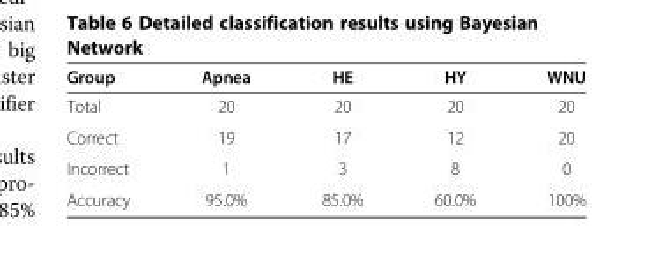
<table><thead><tr><td>Group</td><td>Apnea</td><td>HE</td><td>HY</td><td>WNU</td></tr></thead><tbody><tr><td>Total</td><td>20</td><td>20</td><td>20</td><td>20</td></tr><tr><td>Correct</td><td>19</td><td>17</td><td>12</td><td>20</td></tr><tr><td>Incorrect</td><td>1</td><td>3</td><td>8</td><td>0</td></tr><tr><td>Accuracy</td><td>95.0%</td><td>85.0%</td><td>60.0%</td><td>100%</td></tr></tbody></table>